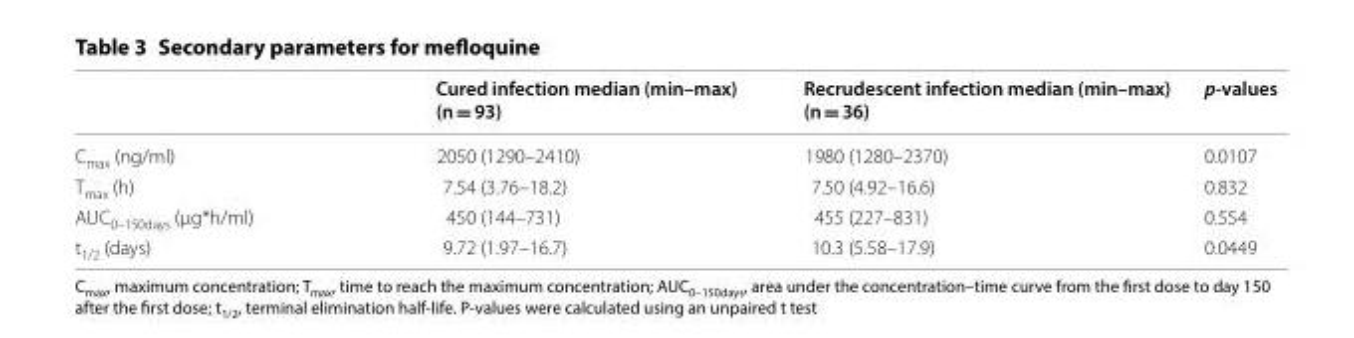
<table><thead><tr><td></td><td>Cured infection median (min–max) (n = 93)</td><td>Recrudescent infection median (min–max) (n = 36)</td><td>p-values</td></tr></thead><tbody><tr><td>C<sub>max</sub> (ng/ml)</td><td>2050 (1290–2410)</td><td>1980 (1280–2370)</td><td>0.0107</td></tr><tr><td>T<sub>max</sub> (h)</td><td>7.54 (3.76–18.2)</td><td>7.50 (4.92–16.6)</td><td>0.832</td></tr><tr><td>AUC <sub>0–150days</sub> (µg*h/ml)</td><td>450 (144–731)</td><td>455 (227–831)</td><td>0.554</td></tr><tr><td>t<sub>1/2</sub> (days)</td><td>9.72 (1.97–16.7)</td><td>10.3 (5.58–17.9)</td><td>0.0449</td></tr></tbody></table>